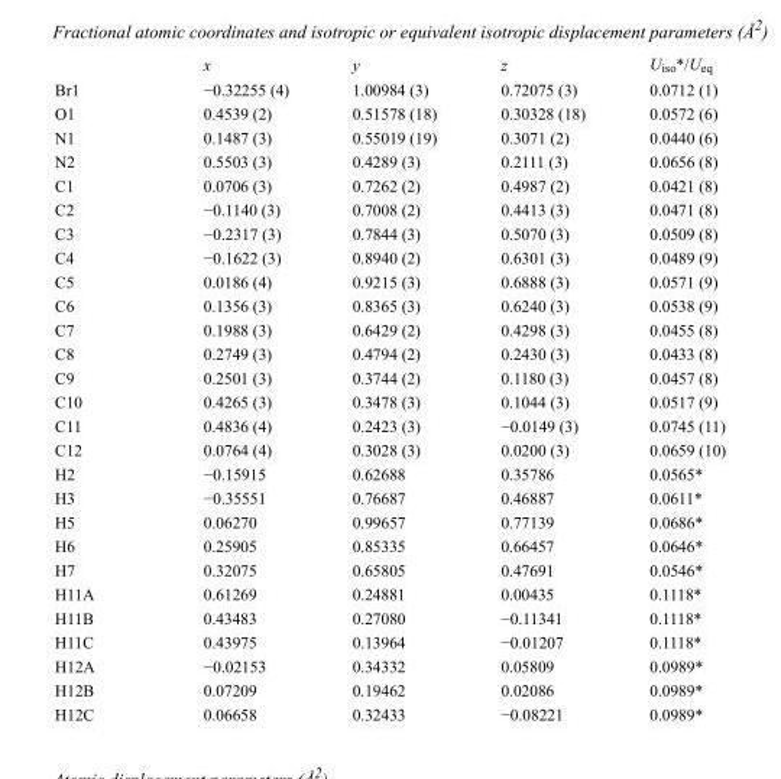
<table><thead><tr><td></td><td>x</td><td>y</td><td>z</td><td>U<sub>iso</sub>*/U<sub>eq</sub></td></tr></thead><tbody><tr><td>Br1</td><td>−0.32255 (4)</td><td>1.00984 (3)</td><td>0.72075 (3)</td><td>0.0712 (1)</td></tr><tr><td>O1</td><td>0.4539 (2)</td><td>0.51578 (18)</td><td>0.30328 (18)</td><td>0.0572 (6)</td></tr><tr><td>N1</td><td>0.1487 (3)</td><td>0.55019 (19)</td><td>0.3071 (2)</td><td>0.0440 (6)</td></tr><tr><td>N2</td><td>0.5503 (3)</td><td>0.4289 (3)</td><td>0.2111 (3)</td><td>0.0656 (8)</td></tr><tr><td>C1</td><td>0.0706 (3)</td><td>0.7262 (2)</td><td>0.4987 (2)</td><td>0.0421 (8)</td></tr><tr><td>C2</td><td>−0.1140 (3)</td><td>0.7008 (2)</td><td>0.4413 (3)</td><td>0.0471 (8)</td></tr><tr><td>C3</td><td>−0.2317 (3)</td><td>0.7844 (3)</td><td>0.5070 (3)</td><td>0.0509 (8)</td></tr><tr><td>C4</td><td>−0.1622 (3)</td><td>0.8940 (2)</td><td>0.6301 (3)</td><td>0.0489 (9)</td></tr><tr><td>C5</td><td>0.0186 (4)</td><td>0.9215 (3)</td><td>0.6888 (3)</td><td>0.0571 (9)</td></tr><tr><td>C6</td><td>0.1356 (3)</td><td>0.8365 (3)</td><td>0.6240 (3)</td><td>0.0538 (9)</td></tr><tr><td>C7</td><td>0.1988 (3)</td><td>0.6429 (2)</td><td>0.4298 (3)</td><td>0.0455 (8)</td></tr><tr><td>C8</td><td>0.2749 (3)</td><td>0.4794 (2)</td><td>0.2430 (3)</td><td>0.0433 (8)</td></tr><tr><td>C9</td><td>0.2501 (3)</td><td>0.3744 (2)</td><td>0.1180 (3)</td><td>0.0457 (8)</td></tr><tr><td>C10</td><td>0.4265 (3)</td><td>0.3478 (3)</td><td>0.1044 (3)</td><td>0.0517 (9)</td></tr><tr><td>C11</td><td>0.4836 (4)</td><td>0.2423 (3)</td><td>−0.0149 (3)</td><td>0.0745 (11)</td></tr><tr><td>C12</td><td>0.0764 (4)</td><td>0.3028 (3)</td><td>0.0200 (3)</td><td>0.0659 (10)</td></tr><tr><td>H2</td><td>−0.15915</td><td>0.62688</td><td>0.35786</td><td>0.0565*</td></tr><tr><td>H3</td><td>−0.35551</td><td>0.76687</td><td>0.46887</td><td>0.0611*</td></tr><tr><td>H5</td><td>0.06270</td><td>0.99657</td><td>0.77139</td><td>0.0686*</td></tr><tr><td>H6</td><td>0.25905</td><td>0.85335</td><td>0.66457</td><td>0.0646*</td></tr><tr><td>H7</td><td>0.32075</td><td>0.65805</td><td>0.47691</td><td>0.0546*</td></tr><tr><td>H11A</td><td>0.61269</td><td>0.24881</td><td>0.00435</td><td>0.1118*</td></tr><tr><td>H11B</td><td>0.43483</td><td>0.27080</td><td>−0.11341</td><td>0.1118*</td></tr><tr><td>H11C</td><td>0.43975</td><td>0.13964</td><td>−0.01207</td><td>0.1118*</td></tr><tr><td>H12A</td><td>−0.02153</td><td>0.34332</td><td>0.05809</td><td>0.0989*</td></tr><tr><td>H12B</td><td>0.07209</td><td>0.19462</td><td>0.02086</td><td>0.0989*</td></tr><tr><td>H12C</td><td>0.06658</td><td>0.32433</td><td>−0.08221</td><td>0.0989*</td></tr></tbody></table>